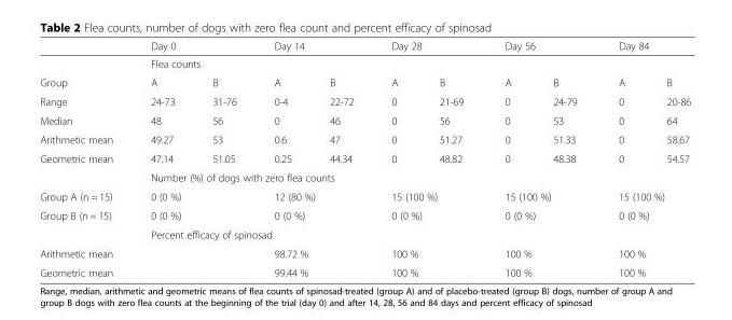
<table><thead><tr><td rowspan="3">Group</td><td colspan="2">Day 0</td><td colspan="2">Day 14</td><td colspan="2">Day 28</td><td colspan="2">Day 56</td><td colspan="2">Day 84</td></tr><tr><td colspan="10">Flea counts</td></tr><tr><td>A</td><td>B</td><td>A</td><td>B</td><td>A</td><td>B</td><td>A</td><td>B</td><td>A</td><td>B</td></tr></thead><tbody><tr><td>Range</td><td>24-73</td><td>31-76</td><td>0-4</td><td>22-72</td><td>0</td><td>21-69</td><td>0</td><td>24-79</td><td>0</td><td>20-86</td></tr><tr><td>Median</td><td>48</td><td>56</td><td>0</td><td>46</td><td>0</td><td>56</td><td>0</td><td>53</td><td>0</td><td>64</td></tr><tr><td>Arithmetic mean</td><td>49.27</td><td>53</td><td>0.6</td><td>47</td><td>0</td><td>51.27</td><td>0</td><td>51.33</td><td>0</td><td>58.67</td></tr><tr><td rowspan="2">Geometric mean</td><td>47.14</td><td>51.05</td><td>0.25</td><td>44.34</td><td>0</td><td>48.82</td><td>0</td><td>48.38</td><td>0</td><td>54.57</td></tr><tr><td colspan="10">Number (%) of dogs with zero flea counts</td></tr><tr><td>Group A (n = 15)</td><td colspan="2">0 (0 %)</td><td colspan="2">12 (80 %)</td><td colspan="2">15 (100 %)</td><td colspan="2">15 (100 %)</td><td colspan="2">15 (100 %)</td></tr><tr><td rowspan="2">Group B (n = 15)</td><td colspan="2">0 (0 %)</td><td colspan="2">0 (0 %)</td><td colspan="2">0 (0 %)</td><td colspan="2">0 (0 %)</td><td colspan="2">0 (0 %)</td></tr><tr><td colspan="10">Percent efficacy of spinosad</td></tr><tr><td>Arithmetic mean</td><td colspan="2"></td><td colspan="2">98.72 %</td><td colspan="2">100 %</td><td colspan="2">100 %</td><td colspan="2">100 %</td></tr><tr><td>Geometric mean</td><td colspan="2"></td><td colspan="2">99.44 %</td><td colspan="2">100 %</td><td colspan="2">100 %</td><td colspan="2">100 %</td></tr></tbody></table>